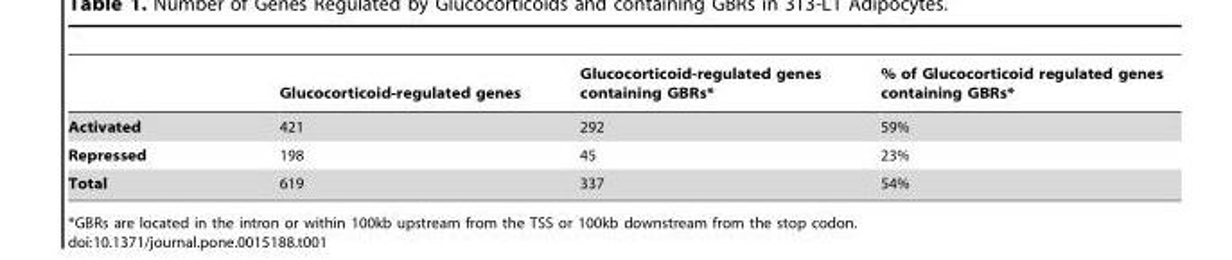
<table><thead><tr><td></td><td>Glucocorticoid-regulated genes</td><td>Glucocorticoid-regulated genes containing GBRs*</td><td>% of Glucocorticoid regulated genes containing GBRs*</td></tr></thead><tbody><tr><td>Activated</td><td>421</td><td>292</td><td>59%</td></tr><tr><td>Repressed</td><td>198</td><td>45</td><td>23%</td></tr><tr><td>Total</td><td>619</td><td>337</td><td>54%</td></tr></tbody></table>